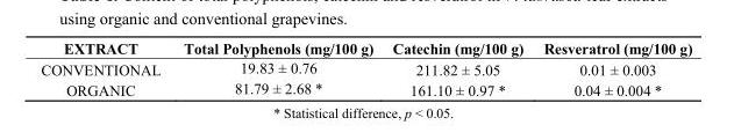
<table><thead><tr><td>EXTRACT</td><td>Total Polyphenols (mg/100 g)</td><td>Catechin (mg/100 g)</td><td>Resveratrol (mg/100 g)</td></tr></thead><tbody><tr><td>CONVENTIONAL</td><td>19.83 ± 0.76</td><td>211.82 ± 5.05</td><td>0.01 ± 0.003</td></tr><tr><td>ORGANIC</td><td>81.79 ± 2.68 *</td><td>161.10 ± 0.97 *</td><td>0.04 ± 0.004 *</td></tr></tbody></table>